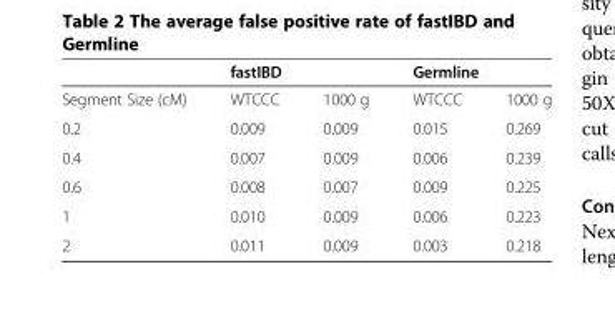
<table><thead><tr><td rowspan="2">Segment Size (cM)</td><td colspan="2">fastIBD</td><td colspan="2">Germline</td></tr><tr><td>WTCCC</td><td>1000 g</td><td>WTCCC</td><td>1000 g</td></tr></thead><tbody><tr><td>0.2</td><td>0.009</td><td>0.009</td><td>0.015</td><td>0.269</td></tr><tr><td>0.4</td><td>0.007</td><td>0.009</td><td>0.006</td><td>0.239</td></tr><tr><td>0.6</td><td>0.008</td><td>0.007</td><td>0.009</td><td>0.225</td></tr><tr><td>1</td><td>0.010</td><td>0.009</td><td>0.006</td><td>0.223</td></tr><tr><td>2</td><td>0.011</td><td>0.009</td><td>0.003</td><td>0.218</td></tr></tbody></table>